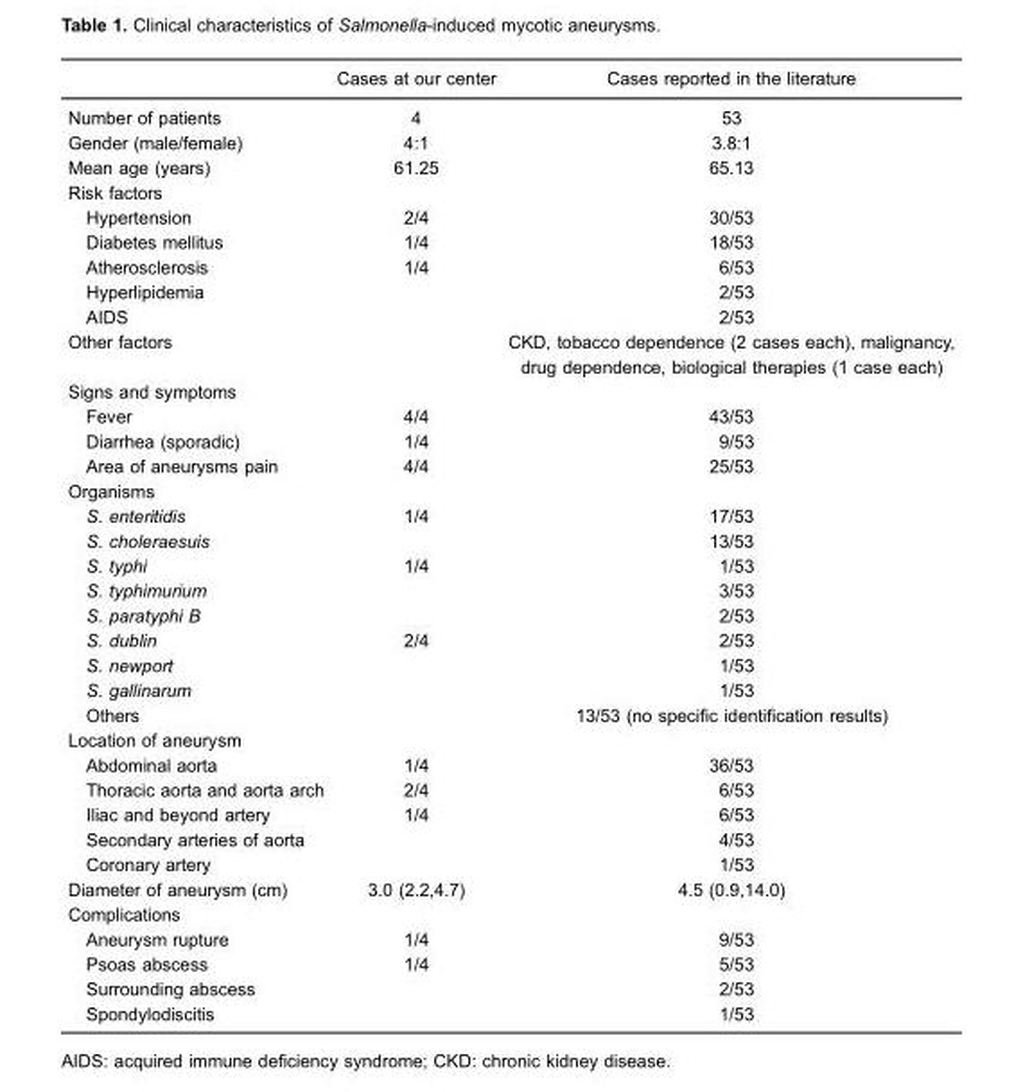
<table><thead><tr><td></td><td>Cases at our center</td><td>Cases reported in the literature</td></tr></thead><tbody><tr><td>Number of patients</td><td>4</td><td>53</td></tr><tr><td>Gender (male/female)</td><td>4:1</td><td>3.8:1</td></tr><tr><td>Mean age (years)</td><td>61.25</td><td>65.13</td></tr><tr><td colspan="3">Risk factors</td></tr><tr><td>Hypertension</td><td>2/4</td><td>30/53</td></tr><tr><td>Diabetes mellitus</td><td>1/4</td><td>18/53</td></tr><tr><td>Atherosclerosis</td><td>1/4</td><td>6/53</td></tr><tr><td>Hyperlipidemia</td><td></td><td>2/53</td></tr><tr><td>AIDS</td><td></td><td>2/53</td></tr><tr><td>Other factors</td><td></td><td>CKD, tobacco dependence (2 cases each), malignancy, drug dependence, biological therapies (1 case each)</td></tr><tr><td colspan="3">Signs and symptoms</td></tr><tr><td>Fever</td><td>4/4</td><td>43/53</td></tr><tr><td>Diarrhea (sporadic)</td><td>1/4</td><td>9/53</td></tr><tr><td>Area of aneurysms pain</td><td>4/4</td><td>25/53</td></tr><tr><td colspan="3">Organisms</td></tr><tr><td>S. enteritidis</td><td>1/4</td><td>17/53</td></tr><tr><td>S. choleraesuis</td><td></td><td>13/53</td></tr><tr><td>S. typhi</td><td>1/4</td><td>1/53</td></tr><tr><td>S. typhimurium</td><td></td><td>3/53</td></tr><tr><td>S. paratyphi B</td><td></td><td>2/53</td></tr><tr><td>S. dublin</td><td>2/4</td><td>2/53</td></tr><tr><td>S. newport</td><td></td><td>1/53</td></tr><tr><td>S. gallinarum</td><td></td><td>1/53</td></tr><tr><td>Others</td><td></td><td>13/53 (no specific identification results)</td></tr><tr><td colspan="3">Location of aneurysm</td></tr><tr><td>Abdominal aorta</td><td>1/4</td><td>36/53</td></tr><tr><td>Thoracic aorta and aorta arch</td><td>2/4</td><td>6/53</td></tr><tr><td>Iliac and beyond artery</td><td>1/4</td><td>6/53</td></tr><tr><td>Secondary arteries of aorta</td><td></td><td>4/53</td></tr><tr><td>Coronary artery</td><td></td><td>1/53</td></tr><tr><td>Diameter of aneurysm (cm)</td><td>3.0 (2.2,4.7)</td><td>4.5 (0.9,14.0)</td></tr><tr><td colspan="3">Complications</td></tr><tr><td>Aneurysm rupture</td><td>1/4</td><td>9/53</td></tr><tr><td>Psoas abscess</td><td>1/4</td><td>5/53</td></tr><tr><td>Surrounding abscess</td><td></td><td>2/53</td></tr><tr><td>Spondylodiscitis</td><td></td><td>1/53</td></tr></tbody></table>